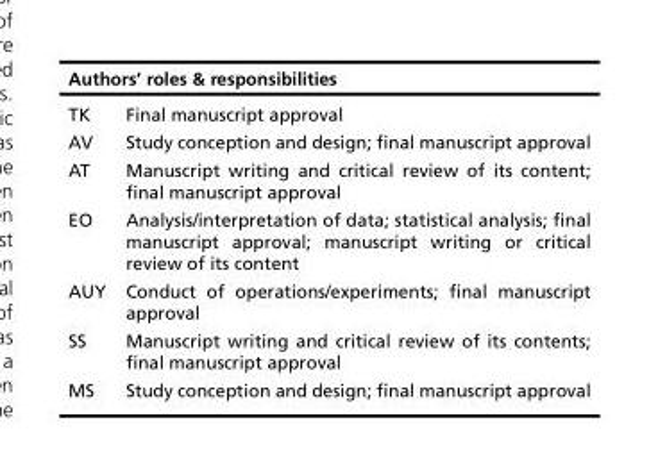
<table><thead><tr><td colspan="2">Authors’ roles &amp; responsibilities</td></tr><tr><td>TK</td><td>Final manuscript approval</td></tr></thead><tbody><tr><td>AV</td><td>Study conception and design; final manuscript approval</td></tr><tr><td>AT</td><td>Manuscript writing and critical review of its content; final manuscript approval</td></tr><tr><td>EO</td><td>Analysis/interpretation of data; statistical analysis; final manuscript approval; manuscript writing or critical review of its content</td></tr><tr><td>AUY</td><td>Conduct of operations/experiments; final manuscript approval</td></tr><tr><td>SS</td><td>Manuscript writing and critical review of its contents; final manuscript approval</td></tr><tr><td>MS</td><td>Study conception and design; final manuscript approval</td></tr></tbody></table>